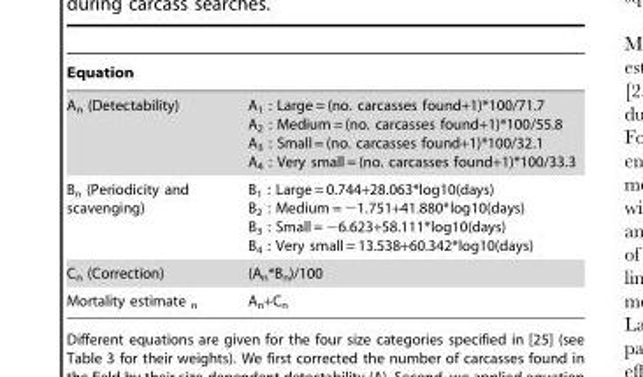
<table><thead><tr><td>Equation</td><td></td></tr></thead><tbody><tr><td>A<sub>n</sub> (Detectability)</td><td>A<sub>1</sub> : Large = (no. carcasses found+1)*100/71.7 A<sub>2</sub> : Medium = (no. carcasses found+1)*100/55.8 A<sub>3</sub> : Small = (no. carcasses found+1)*100/32.1 A<sub>4</sub> : Very small = (no. carcasses found+1)*100/33.3</td></tr><tr><td>B<sub>n</sub> (Periodicity and scavenging)</td><td>B<sub>1</sub> : Large = 0.744+28.063*log10(days) B<sub>2</sub> : Medium = −1.751+41.880*log10(days) B<sub>3</sub> : Small = −6.623+58.111*log10(days) B<sub>4</sub> : Very small = 13.538+60.342*log10(days)</td></tr><tr><td>C<sub>n</sub> (Correction)</td><td>(A<sub>n</sub>*B<sub>n</sub>)/100</td></tr><tr><td>Mortality estimate <sub>n</sub></td><td>A<sub>n</sub>+C<sub>n</sub></td></tr></tbody></table>